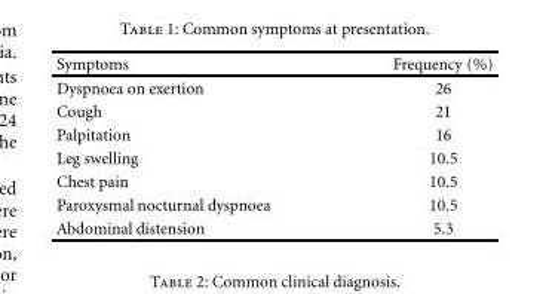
<table><thead><tr><td>Symptoms</td><td>Frequency (%)</td></tr></thead><tbody><tr><td>Dyspnoea on exertion</td><td>26</td></tr><tr><td>Cough</td><td>21</td></tr><tr><td>Palpitation</td><td>16</td></tr><tr><td>Leg swelling</td><td>10.5</td></tr><tr><td>Chest pain</td><td>10.5</td></tr><tr><td>Paroxysmal nocturnal dyspnoea</td><td>10.5</td></tr><tr><td>Abdominal distension</td><td>5.3</td></tr></tbody></table>